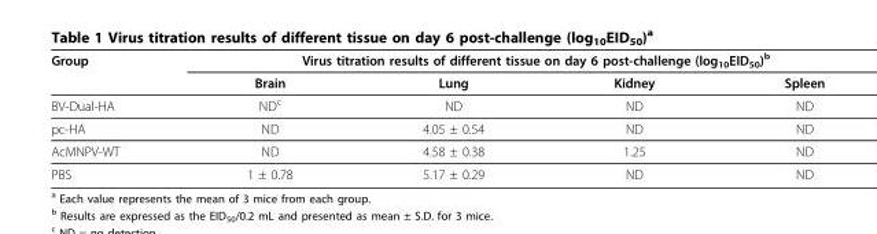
<table><thead><tr><td rowspan="2">Group</td><td colspan="4">Virus titration results of different tissue on day 6 post-challenge (log<sub>10</sub>EID<sub>50</sub>)<sup>b</sup></td></tr><tr><td>Brain</td><td>Lung</td><td>Kidney</td><td>Spleen</td></tr></thead><tbody><tr><td>BV-Dual-HA</td><td>ND<sup>c</sup></td><td>ND</td><td>ND</td><td>ND</td></tr><tr><td>pc-HA</td><td>ND</td><td>4.05 ± 0.54</td><td>ND</td><td>ND</td></tr><tr><td>AcMNPV-WT</td><td>ND</td><td>4.58 ± 0.38</td><td>1.25</td><td>ND</td></tr><tr><td>PBS</td><td>1 ± 0.78</td><td>5.17 ± 0.29</td><td>ND</td><td>ND</td></tr></tbody></table>